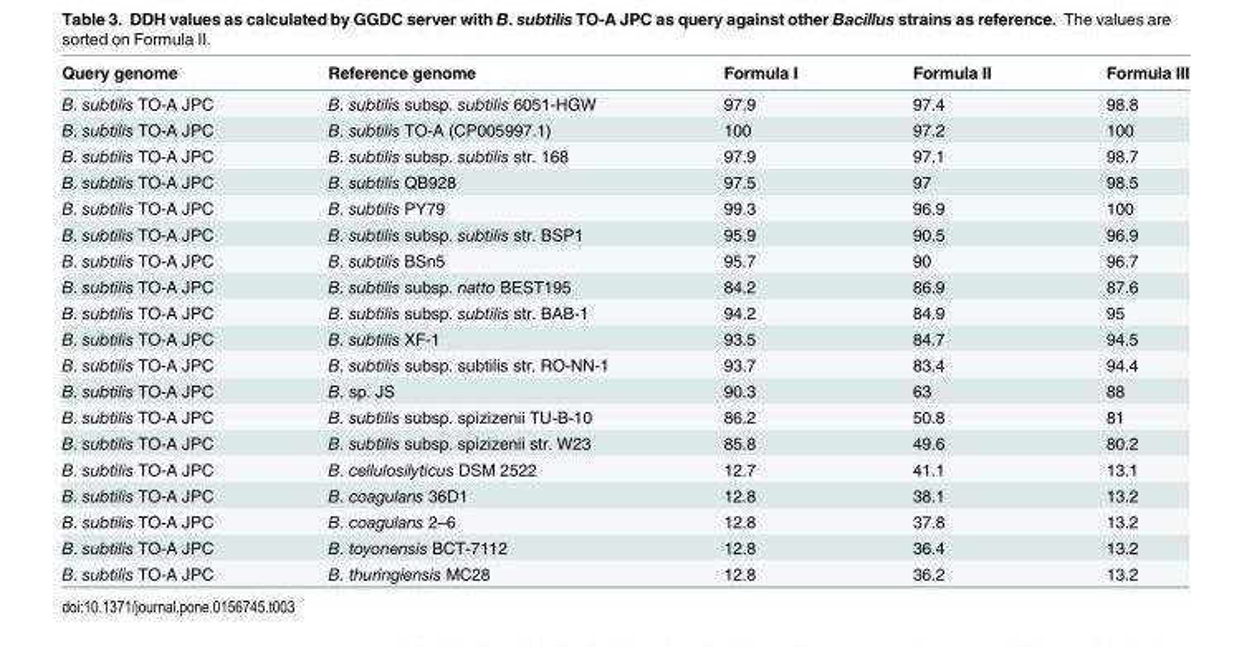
<table><thead><tr><td>Query genome</td><td>Reference genome</td><td>Formula I</td><td>Formula II</td><td>Formula III</td></tr></thead><tbody><tr><td>B. subtilis TO-A JPC</td><td>B. subtilis subsp. subtilis 6051-HGW</td><td>97.9</td><td>97.4</td><td>98.8</td></tr><tr><td>B. subtilis TO-A JPC</td><td>B. subtilis TO-A (CP005997.1)</td><td>100</td><td>97.2</td><td>100</td></tr><tr><td>B. subtilis TO-A JPC</td><td>B. subtilis subsp. subtilis str. 168</td><td>97.9</td><td>97.1</td><td>98.7</td></tr><tr><td>B. subtilis TO-A JPC</td><td>B. subtilis QB928</td><td>97.5</td><td>97</td><td>98.5</td></tr><tr><td>B. subtilis TO-A JPC</td><td>B. subtilis PY79</td><td>99.3</td><td>96.9</td><td>100</td></tr><tr><td>B. subtilis TO-A JPC</td><td>B. subtilis subsp. subtilis str. BSP1</td><td>95.9</td><td>90.5</td><td>96.9</td></tr><tr><td>B. subtilis TO-A JPC</td><td>B. subtilis BSn5</td><td>95.7</td><td>90</td><td>96.7</td></tr><tr><td>B. subtilis TO-A JPC</td><td>B. subtilis subsp. natto BEST195</td><td>84.2</td><td>86.9</td><td>87.6</td></tr><tr><td>B. subtilis TO-A JPC</td><td>B. subtilis subsp. subtilis str. BAB-1</td><td>94.2</td><td>84.9</td><td>95</td></tr><tr><td>B. subtilis TO-A JPC</td><td>B. subtilis XF-1</td><td>93.5</td><td>84.7</td><td>94.5</td></tr><tr><td>B. subtilis TO-A JPC</td><td>B. subtilis subsp. subtilis str. RO-NN-1</td><td>93.7</td><td>83.4</td><td>94.4</td></tr><tr><td>B. subtilis TO-A JPC</td><td>B. sp. JS</td><td>90.3</td><td>63</td><td>88</td></tr><tr><td>B. subtilis TO-A JPC</td><td>B. subtilis subsp. spizizenii TU-B-10</td><td>86.2</td><td>50.8</td><td>81</td></tr><tr><td>B. subtilis TO-A JPC</td><td>B. subtilis subsp. spizizenii str. W23</td><td>85.8</td><td>49.6</td><td>80.2</td></tr><tr><td>B. subtilis TO-A JPC</td><td>B. cellulosilyticus DSM 2522</td><td>12.7</td><td>41.1</td><td>13.1</td></tr><tr><td>B. subtilis TO-A JPC</td><td>B. coagulans 36D1</td><td>12.8</td><td>38.1</td><td>13.2</td></tr><tr><td>B. subtilis TO-A JPC</td><td>B. coagulans 2–6</td><td>12.8</td><td>37.8</td><td>13.2</td></tr><tr><td>B. subtilis TO-A JPC</td><td>B. toyonensis BCT-7112</td><td>12.8</td><td>36.4</td><td>13.2</td></tr><tr><td>B. subtilis TO-A JPC</td><td>B. thuringiensis MC28</td><td>12.8</td><td>36.2</td><td>13.2</td></tr></tbody></table>